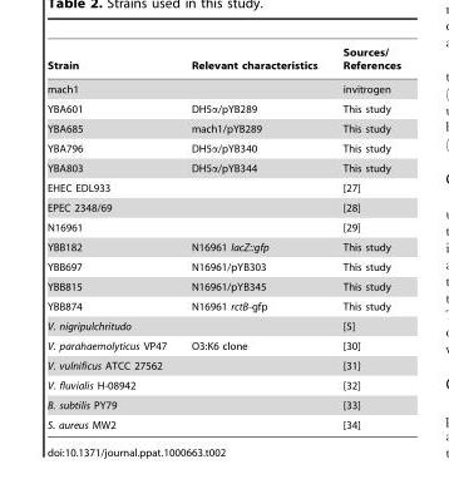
<table><thead><tr><td>Strain</td><td>Relevant characteristics</td><td>Sources/ References</td></tr></thead><tbody><tr><td>mach1</td><td></td><td>invitrogen</td></tr><tr><td>YBA601</td><td>DH5α/pYB289</td><td>This study</td></tr><tr><td>YBA685</td><td>mach1/pYB289</td><td>This study</td></tr><tr><td>YBA796</td><td>DH5α/pYB340</td><td>This study</td></tr><tr><td>YBA803</td><td>DH5α/pYB344</td><td>This study</td></tr><tr><td>EHEC EDL933</td><td></td><td>[27]</td></tr><tr><td>EPEC 2348/69</td><td></td><td>[28]</td></tr><tr><td>N16961</td><td></td><td>[29]</td></tr><tr><td>YBB182</td><td>N16961 lacZ::gfp</td><td>This study</td></tr><tr><td>YBB697</td><td>N16961/pYB303</td><td>This study</td></tr><tr><td>YBB815</td><td>N16961/pYB345</td><td>This study</td></tr><tr><td>YBB874</td><td>N16961 rctB-gfp</td><td>This study</td></tr><tr><td>V. nigripulchritudo</td><td></td><td>[5]</td></tr><tr><td>V. parahaemolyticus VP47</td><td>O3:K6 clone</td><td>[30]</td></tr><tr><td>V. vulnificus ATCC 27562</td><td></td><td>[31]</td></tr><tr><td>V. fluvialis H-08942</td><td></td><td>[32]</td></tr><tr><td>B. subtilis PY79</td><td></td><td>[33]</td></tr><tr><td>S. aureus MW2</td><td></td><td>[34]</td></tr></tbody></table>